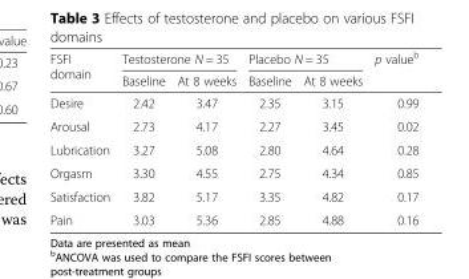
<table><thead><tr><td rowspan="2">FSFI domain</td><td colspan="2">Testosterone N = 35</td><td colspan="2">Placebo N = 35</td><td rowspan="2">p value<sup>b</sup></td></tr><tr><td>Baseline</td><td>At 8 weeks</td><td>Baseline</td><td>At 8 weeks</td></tr></thead><tbody><tr><td>Desire</td><td>2.42</td><td>3.47</td><td>2.35</td><td>3.15</td><td>0.99</td></tr><tr><td>Arousal</td><td>2.73</td><td>4.17</td><td>2.27</td><td>3.45</td><td>0.02</td></tr><tr><td>Lubrication</td><td>3.27</td><td>5.08</td><td>2.80</td><td>4.64</td><td>0.28</td></tr><tr><td>Orgasm</td><td>3.30</td><td>4.55</td><td>2.75</td><td>4.34</td><td>0.85</td></tr><tr><td>Satisfaction</td><td>3.82</td><td>5.17</td><td>3.35</td><td>4.82</td><td>0.17</td></tr><tr><td>Pain</td><td>3.03</td><td>5.36</td><td>2.85</td><td>4.88</td><td>0.16</td></tr></tbody></table>